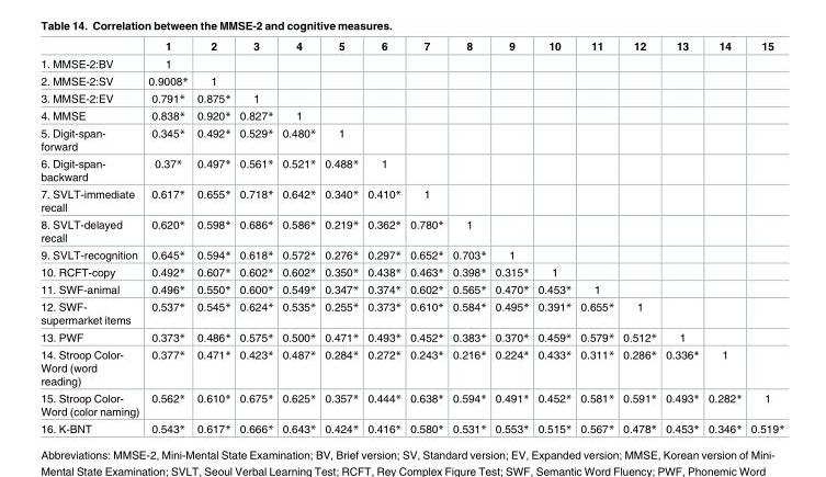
<table><thead><tr><td></td><td>1</td><td>2</td><td>3</td><td>4</td><td>5</td><td>6</td><td>7</td><td>8</td><td>9</td><td>10</td><td>11</td><td>12</td><td>13</td><td>14</td><td>15</td></tr></thead><tbody><tr><td>1. MMSE-2:BV</td><td>1</td><td></td><td></td><td></td><td></td><td></td><td></td><td></td><td></td><td></td><td></td><td></td><td></td><td></td><td></td></tr><tr><td>2. MMSE-2:SV</td><td>0.9008*</td><td>1</td><td></td><td></td><td></td><td></td><td></td><td></td><td></td><td></td><td></td><td></td><td></td><td></td><td></td></tr><tr><td>3. MMSE-2:EV</td><td>0.791*</td><td>0.875*</td><td>1</td><td></td><td></td><td></td><td></td><td></td><td></td><td></td><td></td><td></td><td></td><td></td><td></td></tr><tr><td>4. MMSE</td><td>0.838*</td><td>0.920*</td><td>0.827*</td><td>1</td><td></td><td></td><td></td><td></td><td></td><td></td><td></td><td></td><td></td><td></td><td></td></tr><tr><td>5. Digit-span- forward</td><td>0.345*</td><td>0.492*</td><td>0.529*</td><td>0.480*</td><td>1</td><td></td><td></td><td></td><td></td><td></td><td></td><td></td><td></td><td></td><td></td></tr><tr><td>6. Digit-span- backward</td><td>0.37*</td><td>0.497*</td><td>0.561*</td><td>0.521*</td><td>0.488*</td><td>1</td><td></td><td></td><td></td><td></td><td></td><td></td><td></td><td></td><td></td></tr><tr><td>7. SVLT-immediate recall</td><td>0.617*</td><td>0.655*</td><td>0.718*</td><td>0.642*</td><td>0.340*</td><td>0.410*</td><td>1</td><td></td><td></td><td></td><td></td><td></td><td></td><td></td><td></td></tr><tr><td>8. SVLT-delayed recall</td><td>0.620*</td><td>0.598*</td><td>0.686*</td><td>0.586*</td><td>0.219*</td><td>0.362*</td><td>0.780*</td><td>1</td><td></td><td></td><td></td><td></td><td></td><td></td><td></td></tr><tr><td>9. SVLT-recognition</td><td>0.645*</td><td>0.594*</td><td>0.618*</td><td>0.572*</td><td>0.276*</td><td>0.297*</td><td>0.652*</td><td>0.703*</td><td>1</td><td></td><td></td><td></td><td></td><td></td><td></td></tr><tr><td>10. RCFT-copy</td><td>0.492*</td><td>0.607*</td><td>0.602*</td><td>0.602*</td><td>0.350*</td><td>0.438*</td><td>0.463*</td><td>0.398*</td><td>0.315*</td><td>1</td><td></td><td></td><td></td><td></td><td></td></tr><tr><td>11. SWF-animal</td><td>0.496*</td><td>0.550*</td><td>0.600*</td><td>0.549*</td><td>0.347*</td><td>0.374*</td><td>0.602*</td><td>0.565*</td><td>0.470*</td><td>0.453*</td><td>1</td><td></td><td></td><td></td><td></td></tr><tr><td>12. SWF- supermarket items</td><td>0.537*</td><td>0.545*</td><td>0.624*</td><td>0.535*</td><td>0.255*</td><td>0.373*</td><td>0.610*</td><td>0.584*</td><td>0.495*</td><td>0.391*</td><td>0.655*</td><td>1</td><td></td><td></td><td></td></tr><tr><td>13. PWF</td><td>0.373*</td><td>0.486*</td><td>0.575*</td><td>0.500*</td><td>0.471*</td><td>0.493*</td><td>0.452*</td><td>0.383*</td><td>0.370*</td><td>0.459*</td><td>0.579*</td><td>0.512*</td><td>1</td><td></td><td></td></tr><tr><td>14. Stroop Color- Word (word reading)</td><td>0.377*</td><td>0.471*</td><td>0.423*</td><td>0.487*</td><td>0.284*</td><td>0.272*</td><td>0.243*</td><td>0.216*</td><td>0.224*</td><td>0.433*</td><td>0.311*</td><td>0.286*</td><td>0.336*</td><td>1</td><td></td></tr><tr><td>15. Stroop Color- Word (color naming)</td><td>0.562*</td><td>0.610*</td><td>0.675*</td><td>0.625*</td><td>0.357*</td><td>0.444*</td><td>0.638*</td><td>0.594*</td><td>0.491*</td><td>0.452*</td><td>0.581*</td><td>0.591*</td><td>0.493*</td><td>0.282*</td><td>1</td></tr><tr><td>16. K-BNT</td><td>0.543*</td><td>0.617*</td><td>0.666*</td><td>0.643*</td><td>0.424*</td><td>0.416*</td><td>0.580*</td><td>0.531*</td><td>0.553*</td><td>0.515*</td><td>0.567*</td><td>0.478*</td><td>0.453*</td><td>0.346*</td><td>0.519*</td></tr></tbody></table>